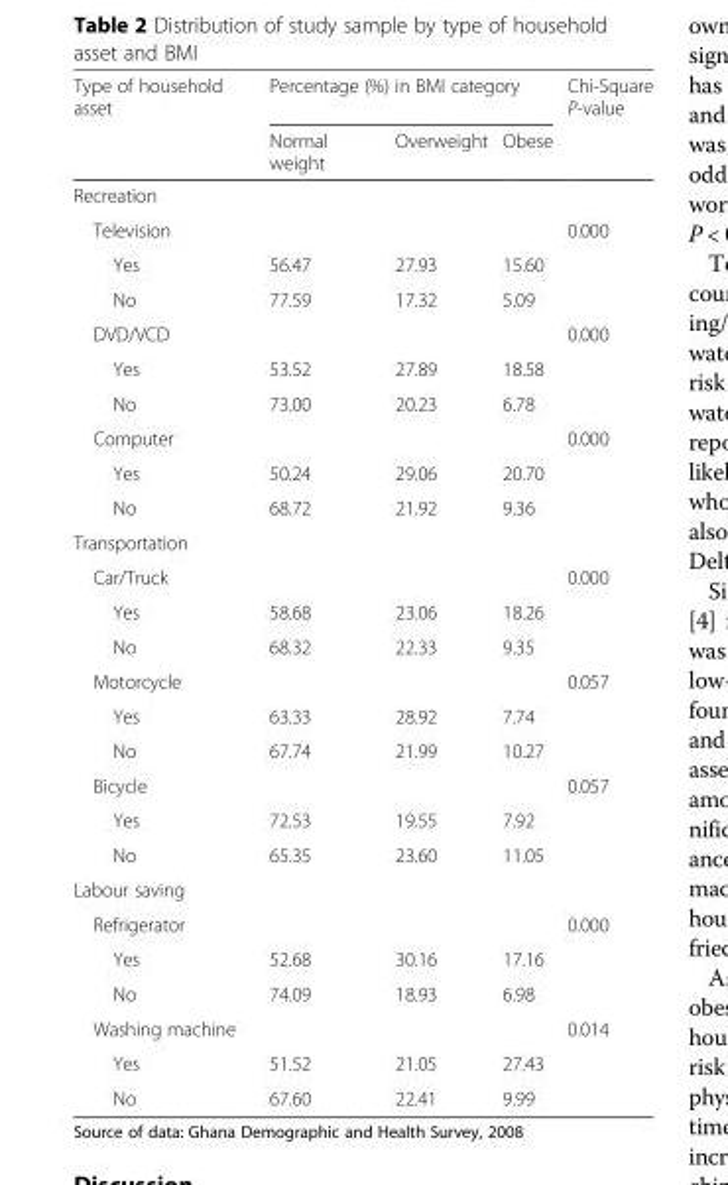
<table><thead><tr><td rowspan="2">Type of household asset</td><td colspan="3">Percentage (%) in BMI category</td><td rowspan="2">Chi-Square P-value</td></tr><tr><td>Normal weight</td><td>Overweight</td><td>Obese</td></tr></thead><tbody><tr><td colspan="5">Recreation</td></tr><tr><td>Television</td><td></td><td></td><td></td><td>0.000</td></tr><tr><td>Yes</td><td>56.47</td><td>27.93</td><td>15.60</td><td></td></tr><tr><td>No</td><td>77.59</td><td>17.32</td><td>5.09</td><td></td></tr><tr><td>DVD/VCD</td><td></td><td></td><td></td><td>0.000</td></tr><tr><td>Yes</td><td>53.52</td><td>27.89</td><td>18.58</td><td></td></tr><tr><td>No</td><td>73.00</td><td>20.23</td><td>6.78</td><td></td></tr><tr><td>Computer</td><td></td><td></td><td></td><td>0.000</td></tr><tr><td>Yes</td><td>50.24</td><td>29.06</td><td>20.70</td><td></td></tr><tr><td>No</td><td>68.72</td><td>21.92</td><td>9.36</td><td></td></tr><tr><td colspan="5">Transportation</td></tr><tr><td>Car/Truck</td><td></td><td></td><td></td><td>0.000</td></tr><tr><td>Yes</td><td>58.68</td><td>23.06</td><td>18.26</td><td></td></tr><tr><td>No</td><td>68.32</td><td>22.33</td><td>9.35</td><td></td></tr><tr><td>Motorcycle</td><td></td><td></td><td></td><td>0.057</td></tr><tr><td>Yes</td><td>63.33</td><td>28.92</td><td>7.74</td><td></td></tr><tr><td>No</td><td>67.74</td><td>21.99</td><td>10.27</td><td></td></tr><tr><td>Bicycle</td><td></td><td></td><td></td><td>0.057</td></tr><tr><td>Yes</td><td>72.53</td><td>19.55</td><td>7.92</td><td></td></tr><tr><td>No</td><td>65.35</td><td>23.60</td><td>11.05</td><td></td></tr><tr><td colspan="5">Labour saving</td></tr><tr><td>Refrigerator</td><td></td><td></td><td></td><td>0.000</td></tr><tr><td>Yes</td><td>52.68</td><td>30.16</td><td>17.16</td><td></td></tr><tr><td>No</td><td>74.09</td><td>18.93</td><td>6.98</td><td></td></tr><tr><td>Washing machine</td><td></td><td></td><td></td><td>0.014</td></tr><tr><td>Yes</td><td>51.52</td><td>21.05</td><td>27.43</td><td></td></tr><tr><td>No</td><td>67.60</td><td>22.41</td><td>9.99</td><td></td></tr></tbody></table>